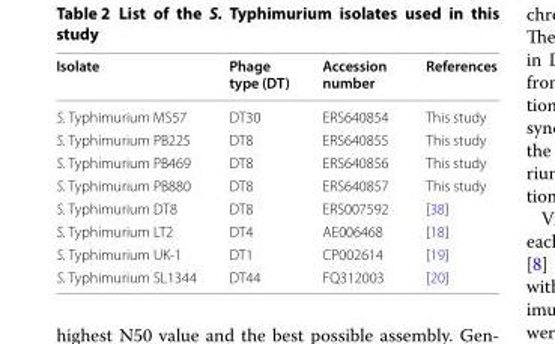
<table><thead><tr><td>Isolate</td><td>Phage type (DT)</td><td>Accession number</td><td>References</td></tr></thead><tbody><tr><td>S. Typhimurium MS57</td><td>DT30</td><td>ERS640854</td><td>This study</td></tr><tr><td>S. Typhimurium PB225</td><td>DT8</td><td>ERS640855</td><td>This study</td></tr><tr><td>S. Typhimurium PB469</td><td>DT8</td><td>ERS640856</td><td>This study</td></tr><tr><td>S. Typhimurium PB880</td><td>DT8</td><td>ERS640857</td><td>This study</td></tr><tr><td>S. Typhimurium DT8</td><td>DT8</td><td>ERS007592</td><td>[38]</td></tr><tr><td>S. Typhimurium LT2</td><td>DT4</td><td>AE006468</td><td>[18]</td></tr><tr><td>S. Typhimurium UK-1</td><td>DT1</td><td>CP002614</td><td>[19]</td></tr><tr><td>S. Typhimurium SL1344</td><td>DT44</td><td>FQ312003</td><td>[20]</td></tr></tbody></table>